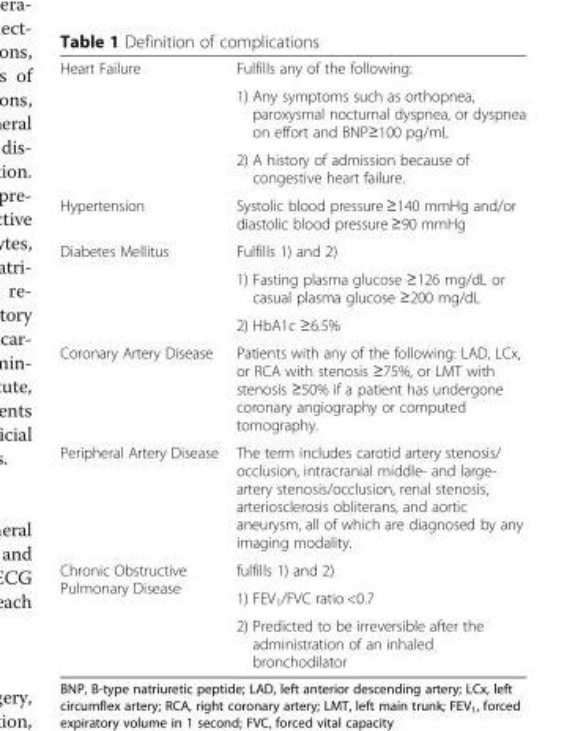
<table><tbody><tr><td rowspan="3">Heart Failure</td><td>Fulfills any of the following:</td></tr><tr><td>1) Any symptoms such as orthopnea, paroxysmal nocturnal dyspnea, or dyspnea on effort and BNP≥100 pg/mL</td></tr><tr><td>2) A history of admission because of congestive heart failure.</td></tr><tr><td>Hypertension</td><td>Systolic blood pressure ≥140 mmHg and/or diastolic blood pressure ≥90 mmHg</td></tr><tr><td rowspan="3">Diabetes Mellitus</td><td>Fulfills 1) and 2)</td></tr><tr><td>1) Fasting plasma glucose ≥126 mg/dL or casual plasma glucose ≥200 mg/dL</td></tr><tr><td>2) HbA1c ≥6.5%</td></tr><tr><td>Coronary Artery Disease</td><td>Patients with any of the following: LAD, LCx, or RCA with stenosis ≥75%, or LMT with stenosis ≥50% if a patient has undergone coronary angiography or computed tomography.</td></tr><tr><td>Peripheral Artery Disease</td><td>The term includes carotid artery stenosis/ occlusion, intracranial middle- and large- artery stenosis/occlusion, renal stenosis, arteriosclerosis obliterans, and aortic aneurysm, all of which are diagnosed by any imaging modality.</td></tr><tr><td rowspan="3">Chronic Obstructive Pulmonary Disease</td><td>fulfills 1) and 2)</td></tr><tr><td>1) FEV<sub>1</sub>/FVC ratio &lt;0.7</td></tr><tr><td>2) Predicted to be irreversible after the administration of an inhaled bronchodilator</td></tr></tbody></table>